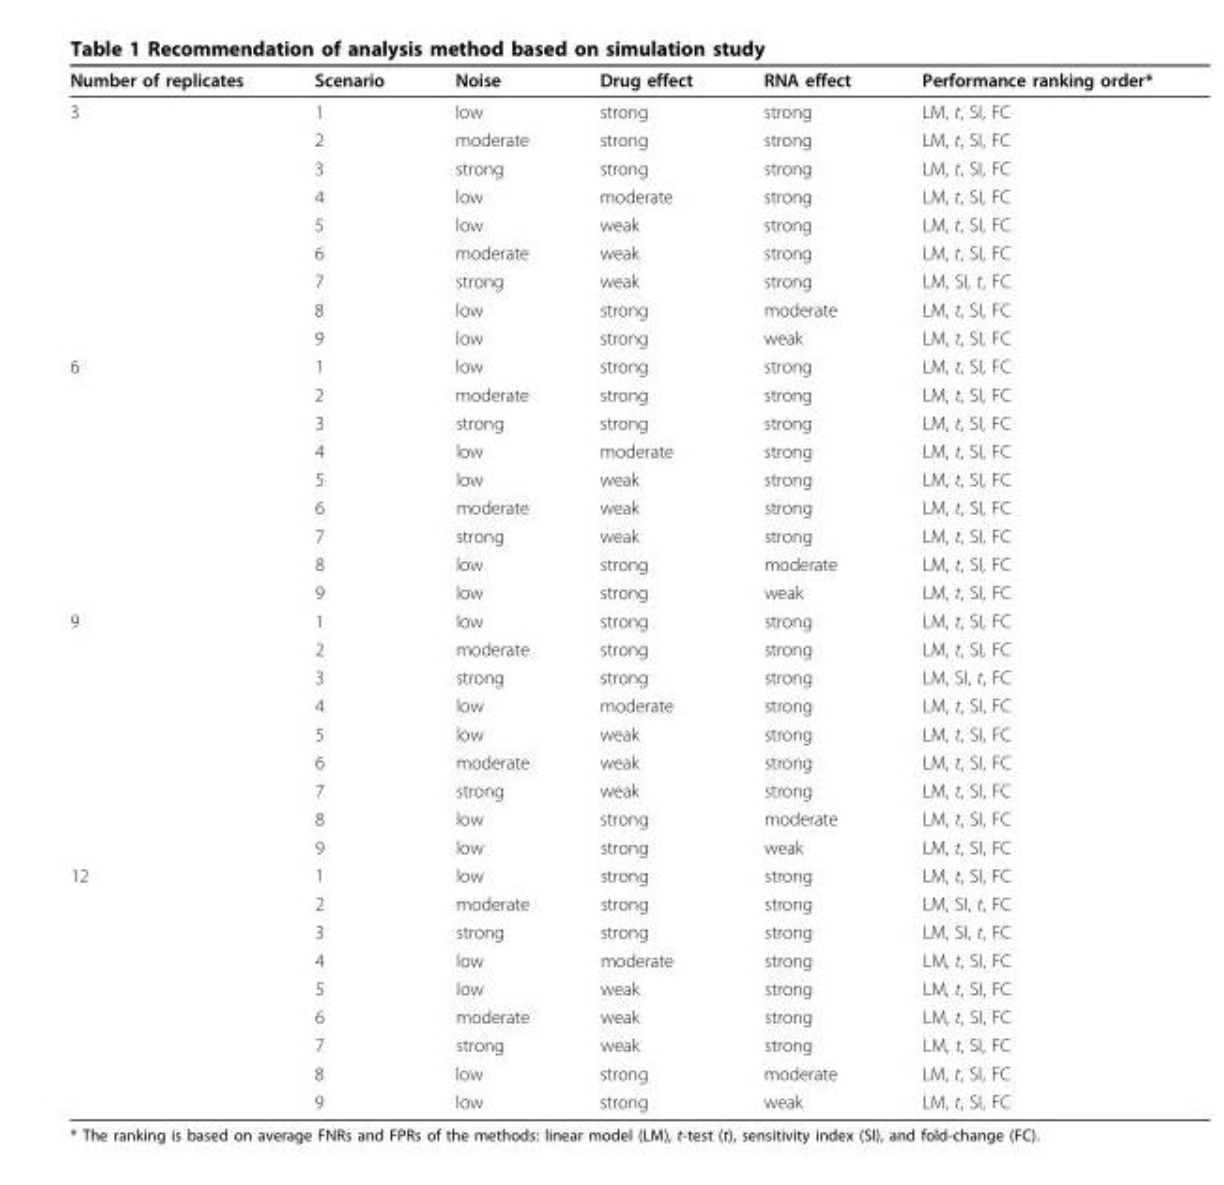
<table><thead><tr><td>Number of replicates</td><td>Scenario</td><td>Noise</td><td>Drug effect</td><td>RNA effect</td><td>Performance ranking order*</td></tr></thead><tbody><tr><td rowspan="9">3</td><td>1</td><td>low</td><td>strong</td><td>strong</td><td>LM, t, SI, FC</td></tr><tr><td>2</td><td>moderate</td><td>strong</td><td>strong</td><td>LM, t, SI, FC</td></tr><tr><td>3</td><td>strong</td><td>strong</td><td>strong</td><td>LM, t, SI, FC</td></tr><tr><td>4</td><td>low</td><td>moderate</td><td>strong</td><td>LM, t, SI, FC</td></tr><tr><td>5</td><td>low</td><td>weak</td><td>strong</td><td>LM, t, SI, FC</td></tr><tr><td>6</td><td>moderate</td><td>weak</td><td>strong</td><td>LM, t, SI, FC</td></tr><tr><td>7</td><td>strong</td><td>weak</td><td>strong</td><td>LM, SI, t, FC</td></tr><tr><td>8</td><td>low</td><td>strong</td><td>moderate</td><td>LM, t, SI, FC</td></tr><tr><td>9</td><td>low</td><td>strong</td><td>weak</td><td>LM, t, SI, FC</td></tr><tr><td rowspan="9">6</td><td>1</td><td>low</td><td>strong</td><td>strong</td><td>LM, t, SI, FC</td></tr><tr><td>2</td><td>moderate</td><td>strong</td><td>strong</td><td>LM, t, SI, FC</td></tr><tr><td>3</td><td>strong</td><td>strong</td><td>strong</td><td>LM, t, SI, FC</td></tr><tr><td>4</td><td>low</td><td>moderate</td><td>strong</td><td>LM, t, SI, FC</td></tr><tr><td>5</td><td>low</td><td>weak</td><td>strong</td><td>LM, t, SI, FC</td></tr><tr><td>6</td><td>moderate</td><td>weak</td><td>strong</td><td>LM, t, SI, FC</td></tr><tr><td>7</td><td>strong</td><td>weak</td><td>strong</td><td>LM, t, SI, FC</td></tr><tr><td>8</td><td>low</td><td>strong</td><td>moderate</td><td>LM, t, SI, FC</td></tr><tr><td>9</td><td>low</td><td>strong</td><td>weak</td><td>LM, t, SI, FC</td></tr><tr><td rowspan="9">9</td><td>1</td><td>low</td><td>strong</td><td>strong</td><td>LM, t, SI, FC</td></tr><tr><td>2</td><td>moderate</td><td>strong</td><td>strong</td><td>LM, t, SI, FC</td></tr><tr><td>3</td><td>strong</td><td>strong</td><td>strong</td><td>LM, SI, t, FC</td></tr><tr><td>4</td><td>low</td><td>moderate</td><td>strong</td><td>LM, t, SI, FC</td></tr><tr><td>5</td><td>low</td><td>weak</td><td>strong</td><td>LM, t, SI, FC</td></tr><tr><td>6</td><td>moderate</td><td>weak</td><td>strong</td><td>LM, t, SI, FC</td></tr><tr><td>7</td><td>strong</td><td>weak</td><td>strong</td><td>LM, t, SI, FC</td></tr><tr><td>8</td><td>low</td><td>strong</td><td>moderate</td><td>LM, t, SI, FC</td></tr><tr><td>9</td><td>low</td><td>strong</td><td>weak</td><td>LM, t, SI, FC</td></tr><tr><td rowspan="9">12</td><td>1</td><td>low</td><td>strong</td><td>strong</td><td>LM, t, SI, FC</td></tr><tr><td>2</td><td>moderate</td><td>strong</td><td>strong</td><td>LM, SI, t, FC</td></tr><tr><td>3</td><td>strong</td><td>strong</td><td>strong</td><td>LM, SI, t, FC</td></tr><tr><td>4</td><td>low</td><td>moderate</td><td>strong</td><td>LM, t, SI, FC</td></tr><tr><td>5</td><td>low</td><td>weak</td><td>strong</td><td>LM, t, SI, FC</td></tr><tr><td>6</td><td>moderate</td><td>weak</td><td>strong</td><td>LM, t, SI, FC</td></tr><tr><td>7</td><td>strong</td><td>weak</td><td>strong</td><td>LM, t, SI, FC</td></tr><tr><td>8</td><td>low</td><td>strong</td><td>moderate</td><td>LM, t, SI, FC</td></tr><tr><td>9</td><td>low</td><td>strong</td><td>weak</td><td>LM, t, SI, FC</td></tr></tbody></table>